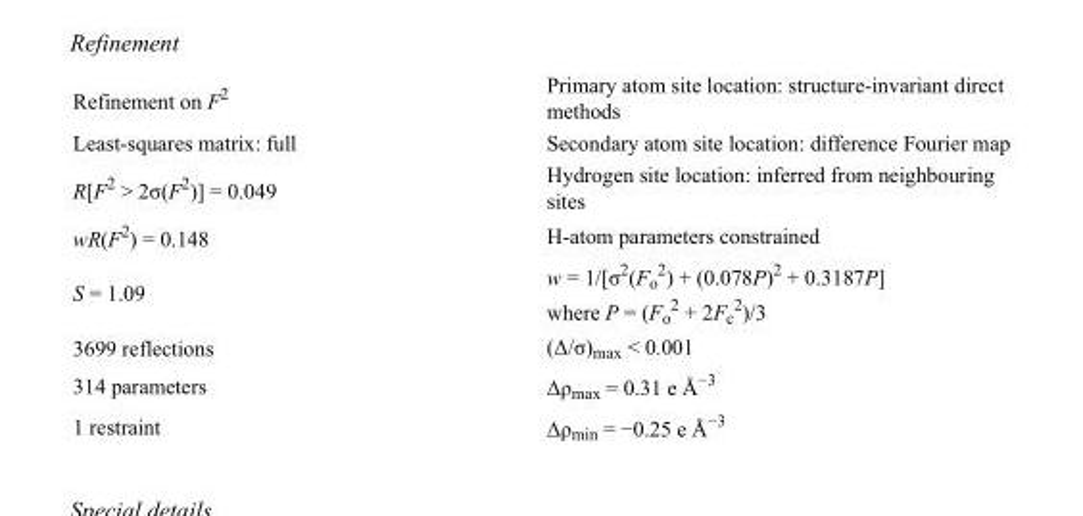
<table><tbody><tr><td>Refinement on F<sup>2</sup></td><td>Primary atom site location: structure-invariant direct methods</td></tr><tr><td>Least-squares matrix: full</td><td>Secondary atom site location: difference Fourier map</td></tr><tr><td>R[F<sup>2</sup> &gt; 2σ(F<sup>2</sup>)] = 0.049</td><td>Hydrogen site location: inferred from neighbouring sites</td></tr><tr><td>wR(F<sup>2</sup>) = 0.148</td><td>H-atom parameters constrained</td></tr><tr><td>S = 1.09</td><td>w = 1/[σ<sup>2</sup>(F<sub>o</sub> <sup>2</sup>) + (0.078P)<sup>2</sup> + 0.3187P] where P = (F<sub>o</sub> <sup>2</sup> + 2F<sub>c</sub> <sup>2</sup>)/3</td></tr><tr><td>3699 reflections</td><td>(Δ/σ)<sub>max</sub> &lt; 0.001</td></tr><tr><td>314 parameters</td><td>Δρ<sub>max</sub> = 0.31 e Å<sup>−3</sup></td></tr><tr><td>1 restraint</td><td>Δρ<sub>min</sub> = −0.25 e Å<sup>−3</sup></td></tr></tbody></table>